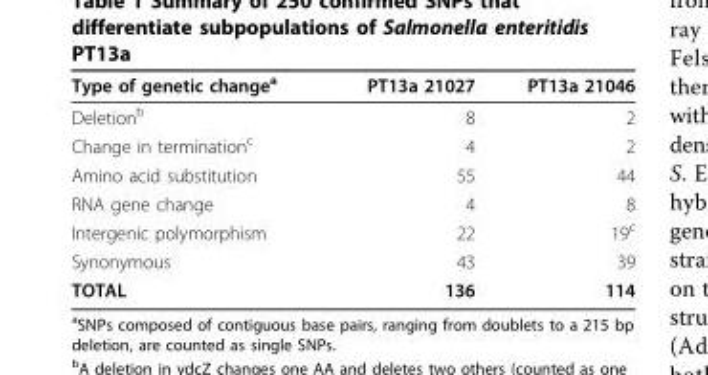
<table><tbody><tr><td>Type of genetic change<sup>a</sup></td><td>PT13a 21027</td><td>PT13a 21046</td></tr><tr><td>Deletion<sup>b</sup></td><td>8</td><td>2</td></tr><tr><td>Change in termination<sup>c</sup></td><td>4</td><td>2</td></tr><tr><td>Amino acid substitution</td><td>55</td><td>44</td></tr><tr><td>RNA gene change</td><td>4</td><td>8</td></tr><tr><td>Intergenic polymorphism</td><td>22</td><td>19<sup>c</sup></td></tr><tr><td>Synonymous</td><td>43</td><td>39</td></tr><tr><td>TOTAL</td><td>136</td><td>114</td></tr></tbody></table>